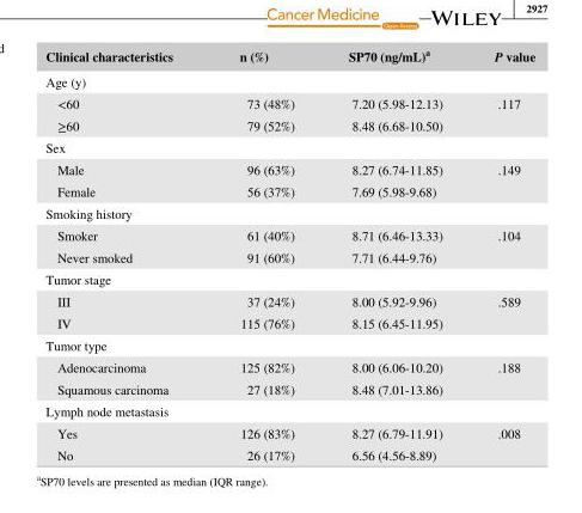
<table><thead><tr><td>Clinical characteristics</td><td>n (%)</td><td>SP70 (ng/mL)<sup>a</sup></td><td>P value</td></tr></thead><tbody><tr><td colspan="4">Age (y)</td></tr><tr><td>&lt;60</td><td>73 (48%)</td><td>7.20 (5.98- 12.13)</td><td rowspan="2">.117</td></tr><tr><td>≥60</td><td>79 (52%)</td><td>8.48 (6.68- 10.50)</td></tr><tr><td colspan="4">Sex</td></tr><tr><td>Male</td><td>96 (63%)</td><td>8.27 (6.74- 11.85)</td><td rowspan="2">.149</td></tr><tr><td>Female</td><td>56 (37%)</td><td>7.69 (5.98- 9.68)</td></tr><tr><td colspan="4">Smoking history</td></tr><tr><td>Smoker</td><td>61 (40%)</td><td>8.71 (6.46- 13.33)</td><td rowspan="2">.104</td></tr><tr><td>Never smoked</td><td>91 (60%)</td><td>7.71 (6.44- 9.76)</td></tr><tr><td colspan="4">Tumor stage</td></tr><tr><td>III</td><td>37 (24%)</td><td>8.00 (5.92- 9.96)</td><td rowspan="2">.589</td></tr><tr><td>IV</td><td>115 (76%)</td><td>8.15 (6.45- 11.95)</td></tr><tr><td colspan="4">Tumor type</td></tr><tr><td>Adenocarcinoma</td><td>125 (82%)</td><td>8.00 (6.06- 10.20)</td><td rowspan="2">.188</td></tr><tr><td>Squamous carcinoma</td><td>27 (18%)</td><td>8.48 (7.01- 13.86)</td></tr><tr><td colspan="4">Lymph node metastasis</td></tr><tr><td>Yes</td><td>126 (83%)</td><td>8.27 (6.79- 11.91)</td><td rowspan="2">.008</td></tr><tr><td>No</td><td>26 (17%)</td><td>6.56 (4.56- 8.89)</td></tr></tbody></table>